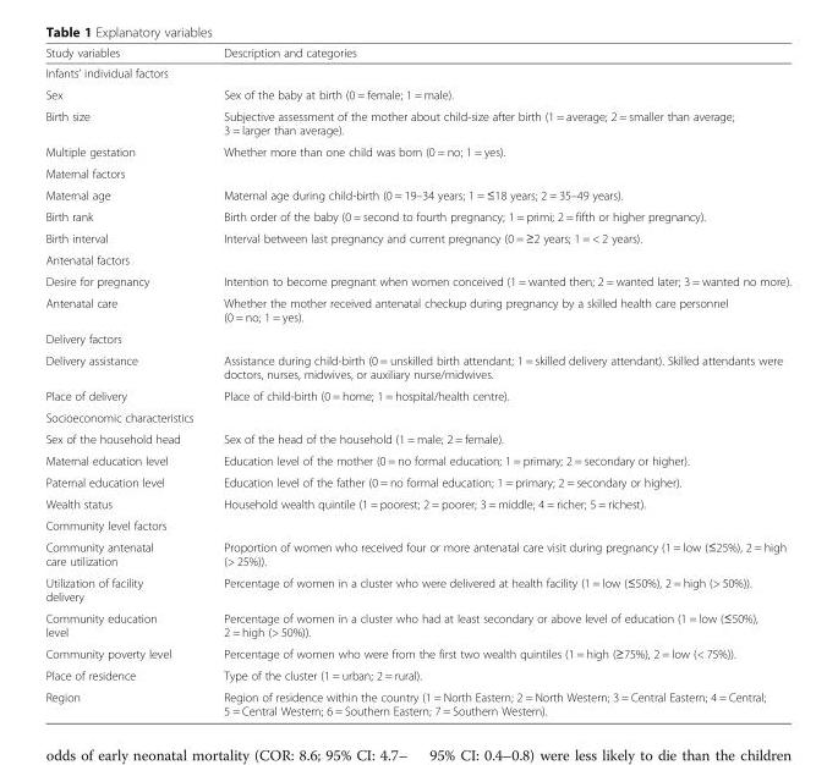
<table><thead><tr><td>Study variables</td><td>Description and categories</td></tr></thead><tbody><tr><td colspan="2">Infants’ individual factors</td></tr><tr><td>Sex</td><td>Sex of the baby at birth (0 = female; 1 = male).</td></tr><tr><td>Birth size</td><td>Subjective assessment of the mother about child-size after birth (1 = average; 2 = smaller than average; 3 = larger than average).</td></tr><tr><td>Multiple gestation</td><td>Whether more than one child was born (0 = no; 1 = yes).</td></tr><tr><td colspan="2">Maternal factors</td></tr><tr><td>Maternal age</td><td>Maternal age during child-birth (0 = 19–34 years; 1 = ≤18 years; 2 = 35–49 years).</td></tr><tr><td>Birth rank</td><td>Birth order of the baby (0 = second to fourth pregnancy; 1 = primi; 2 = fifth or higher pregnancy).</td></tr><tr><td>Birth interval</td><td>Interval between last pregnancy and current pregnancy (0 = ≥2 years; 1 = &lt; 2 years).</td></tr><tr><td colspan="2">Antenatal factors</td></tr><tr><td>Desire for pregnancy</td><td>Intention to become pregnant when women conceived (1 = wanted then; 2 = wanted later; 3 = wanted no more).</td></tr><tr><td>Antenatal care</td><td>Whether the mother received antenatal checkup during pregnancy by a skilled health care personnel (0 = no; 1 = yes).</td></tr><tr><td colspan="2">Delivery factors</td></tr><tr><td>Delivery assistance</td><td>Assistance during child-birth (0 = unskilled birth attendant; 1 = skilled delivery attendant). Skilled attendants were doctors, nurses, midwives, or auxiliary nurse/midwives.</td></tr><tr><td>Place of delivery</td><td>Place of child-birth (0 = home; 1 = hospital/health centre).</td></tr><tr><td colspan="2">Socioeconomic characteristics</td></tr><tr><td>Sex of the household head</td><td>Sex of the head of the household (1 = male; 2 = female).</td></tr><tr><td>Maternal education level</td><td>Education level of the mother (0 = no formal education; 1 = primary; 2 = secondary or higher).</td></tr><tr><td>Paternal education level</td><td>Education level of the father (0 = no formal education; 1 = primary; 2 = secondary or higher).</td></tr><tr><td>Wealth status</td><td>Household wealth quintile (1 = poorest; 2 = poorer; 3 = middle; 4 = richer; 5 = richest).</td></tr><tr><td colspan="2">Community level factors</td></tr><tr><td>Community antenatal care utilization</td><td>Proportion of women who received four or more antenatal care visit during pregnancy (1 = low (≤25%), 2 = high (&gt; 25%)).</td></tr><tr><td>Utilization of facility delivery</td><td>Percentage of women in a cluster who were delivered at health facility (1 = low (≤50%), 2 = high (&gt; 50%)).</td></tr><tr><td>Community education level</td><td>Percentage of women in a cluster who had at least secondary or above level of education (1 = low (≤50%), 2 = high (&gt; 50%)).</td></tr><tr><td>Community poverty level</td><td>Percentage of women who were from the first two wealth quintiles (1 = high (≥75%), 2 = low (&lt; 75%)).</td></tr><tr><td>Place of residence</td><td>Type of the cluster (1 = urban; 2 = rural).</td></tr><tr><td>Region</td><td>Region of residence within the country (1 = North Eastern; 2 = North Western; 3 = Central Eastern; 4 = Central; 5 = Central Western; 6 = Southern Eastern; 7 = Southern Western).</td></tr></tbody></table>